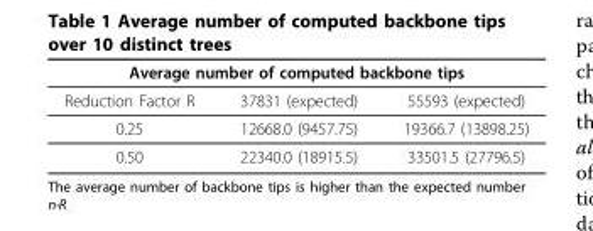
<table><thead><tr><td colspan="3">Average number of computed backbone tips</td></tr><tr><td>Reduction Factor R</td><td>37831 (expected)</td><td>55593 (expected)</td></tr></thead><tbody><tr><td>0.25</td><td>12668.0 (9457.75)</td><td>19366.7 (13898.25)</td></tr><tr><td>0.50</td><td>22340.0 (18915.5)</td><td>33501.5 (27796.5)</td></tr></tbody></table>